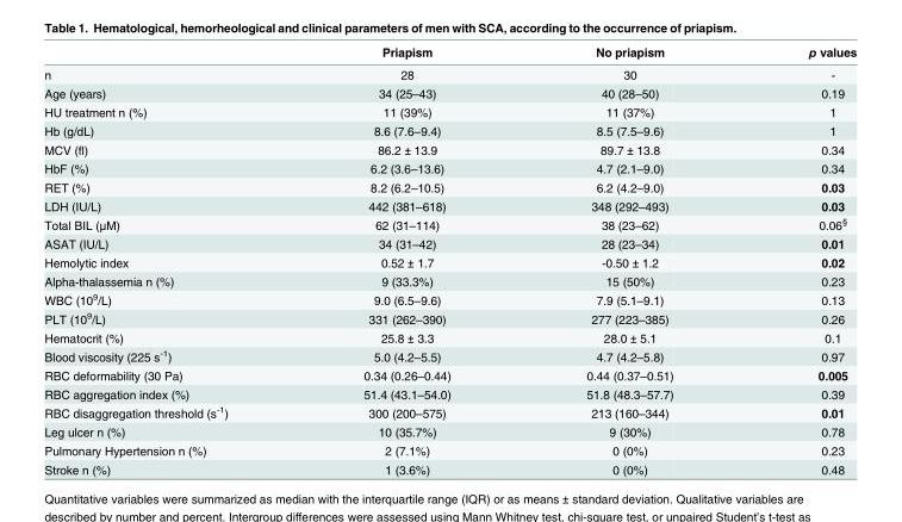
<table><thead><tr><td></td><td>Priapism</td><td>No priapism</td><td>p values</td></tr></thead><tbody><tr><td>n</td><td>28</td><td>30</td><td>-</td></tr><tr><td>Age (years)</td><td>34 (25–43)</td><td>40 (28–50)</td><td>0.19</td></tr><tr><td>HU treatment n (%)</td><td>11 (39%)</td><td>11 (37%)</td><td>1</td></tr><tr><td>Hb (g/dL)</td><td>8.6 (7.6–9.4)</td><td>8.5 (7.5–9.6)</td><td>1</td></tr><tr><td>MCV (fl)</td><td>86.2 ± 13.9</td><td>89.7 ± 13.8</td><td>0.34</td></tr><tr><td>HbF (%)</td><td>6.2 (3.6–13.6)</td><td>4.7 (2.1–9.0)</td><td>0.34</td></tr><tr><td>RET (%)</td><td>8.2 (6.2–10.5)</td><td>6.2 (4.2–9.0)</td><td>0.03</td></tr><tr><td>LDH (IU/L)</td><td>442 (381–618)</td><td>348 (292–493)</td><td>0.03</td></tr><tr><td>Total BIL (μM)</td><td>62 (31–114)</td><td>38 (23–62)</td><td>0.06<sup>§</sup></td></tr><tr><td>ASAT (IU/L)</td><td>34 (31–42)</td><td>28 (23–34)</td><td>0.01</td></tr><tr><td>Hemolytic index</td><td>0.52 ± 1.7</td><td>-0.50 ± 1.2</td><td>0.02</td></tr><tr><td>Alpha-thalassemia n (%)</td><td>9 (33.3%)</td><td>15 (50%)</td><td>0.23</td></tr><tr><td>WBC (10<sup>9</sup>/L)</td><td>9.0 (6.5–9.6)</td><td>7.9 (5.1–9.1)</td><td>0.13</td></tr><tr><td>PLT (10<sup>9</sup>/L)</td><td>331 (262–390)</td><td>277 (223–385)</td><td>0.26</td></tr><tr><td>Hematocrit (%)</td><td>25.8 ± 3.3</td><td>28.0 ± 5.1</td><td>0.1</td></tr><tr><td>Blood viscosity (225 s<sup>-1</sup>)</td><td>5.0 (4.2–5.5)</td><td>4.7 (4.2–5.8)</td><td>0.97</td></tr><tr><td>RBC deformability (30 Pa)</td><td>0.34 (0.26–0.44)</td><td>0.44 (0.37–0.51)</td><td>0.005</td></tr><tr><td>RBC aggregation index (%)</td><td>51.4 (43.1–54.0)</td><td>51.8 (48.3–57.7)</td><td>0.39</td></tr><tr><td>RBC disaggregation threshold (s<sup>-1</sup>)</td><td>300 (200–575)</td><td>213 (160–344)</td><td>0.01</td></tr><tr><td>Leg ulcer n (%)</td><td>10 (35.7%)</td><td>9 (30%)</td><td>0.78</td></tr><tr><td>Pulmonary Hypertension n (%)</td><td>2 (7.1%)</td><td>0 (0%)</td><td>0.23</td></tr><tr><td>Stroke n (%)</td><td>1 (3.6%)</td><td>0 (0%)</td><td>0.48</td></tr></tbody></table>